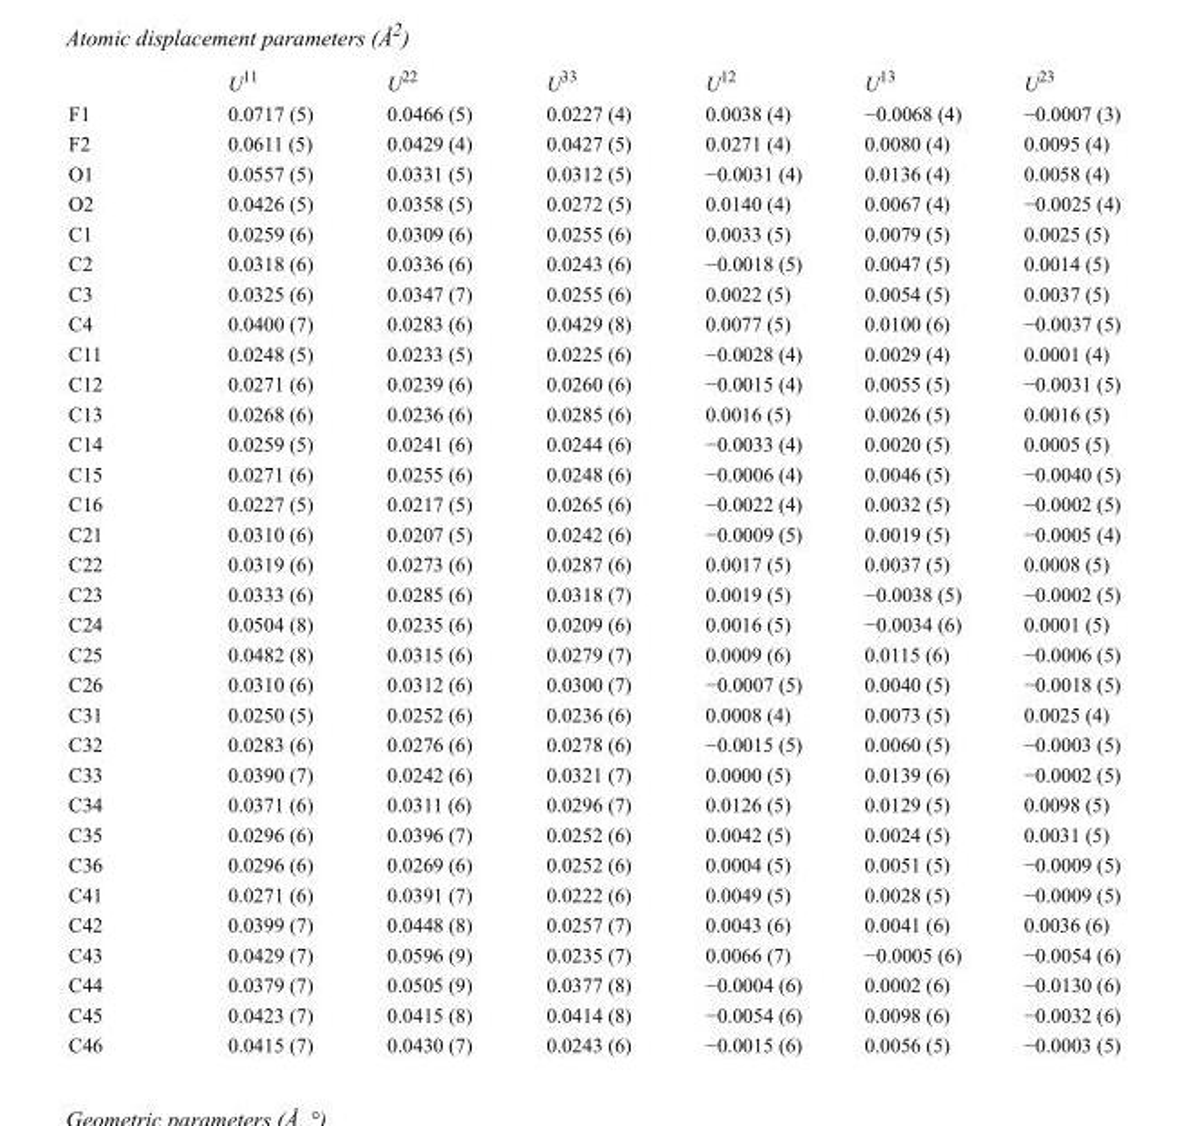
<table><thead><tr><td></td><td>U<sup>11</sup></td><td>U<sup>22</sup></td><td>U<sup>33</sup></td><td>U<sup>12</sup></td><td>U<sup>13</sup></td><td>U<sup>23</sup></td></tr></thead><tbody><tr><td>F1</td><td>0.0717 (5)</td><td>0.0466 (5)</td><td>0.0227 (4)</td><td>0.0038 (4)</td><td>−0.0068 (4)</td><td>−0.0007 (3)</td></tr><tr><td>F2</td><td>0.0611 (5)</td><td>0.0429 (4)</td><td>0.0427 (5)</td><td>0.0271 (4)</td><td>0.0080 (4)</td><td>0.0095 (4)</td></tr><tr><td>O1</td><td>0.0557 (5)</td><td>0.0331 (5)</td><td>0.0312 (5)</td><td>−0.0031 (4)</td><td>0.0136 (4)</td><td>0.0058 (4)</td></tr><tr><td>O2</td><td>0.0426 (5)</td><td>0.0358 (5)</td><td>0.0272 (5)</td><td>0.0140 (4)</td><td>0.0067 (4)</td><td>−0.0025 (4)</td></tr><tr><td>C1</td><td>0.0259 (6)</td><td>0.0309 (6)</td><td>0.0255 (6)</td><td>0.0033 (5)</td><td>0.0079 (5)</td><td>0.0025 (5)</td></tr><tr><td>C2</td><td>0.0318 (6)</td><td>0.0336 (6)</td><td>0.0243 (6)</td><td>−0.0018 (5)</td><td>0.0047 (5)</td><td>0.0014 (5)</td></tr><tr><td>C3</td><td>0.0325 (6)</td><td>0.0347 (7)</td><td>0.0255 (6)</td><td>0.0022 (5)</td><td>0.0054 (5)</td><td>0.0037 (5)</td></tr><tr><td>C4</td><td>0.0400 (7)</td><td>0.0283 (6)</td><td>0.0429 (8)</td><td>0.0077 (5)</td><td>0.0100 (6)</td><td>−0.0037 (5)</td></tr><tr><td>C11</td><td>0.0248 (5)</td><td>0.0233 (5)</td><td>0.0225 (6)</td><td>−0.0028 (4)</td><td>0.0029 (4)</td><td>0.0001 (4)</td></tr><tr><td>C12</td><td>0.0271 (6)</td><td>0.0239 (6)</td><td>0.0260 (6)</td><td>−0.0015 (4)</td><td>0.0055 (5)</td><td>−0.0031 (5)</td></tr><tr><td>C13</td><td>0.0268 (6)</td><td>0.0236 (6)</td><td>0.0285 (6)</td><td>0.0016 (5)</td><td>0.0026 (5)</td><td>0.0016 (5)</td></tr><tr><td>C14</td><td>0.0259 (5)</td><td>0.0241 (6)</td><td>0.0244 (6)</td><td>−0.0033 (4)</td><td>0.0020 (5)</td><td>0.0005 (5)</td></tr><tr><td>C15</td><td>0.0271 (6)</td><td>0.0255 (6)</td><td>0.0248 (6)</td><td>−0.0006 (4)</td><td>0.0046 (5)</td><td>−0.0040 (5)</td></tr><tr><td>C16</td><td>0.0227 (5)</td><td>0.0217 (5)</td><td>0.0265 (6)</td><td>−0.0022 (4)</td><td>0.0032 (5)</td><td>−0.0002 (5)</td></tr><tr><td>C21</td><td>0.0310 (6)</td><td>0.0207 (5)</td><td>0.0242 (6)</td><td>−0.0009 (5)</td><td>0.0019 (5)</td><td>−0.0005 (4)</td></tr><tr><td>C22</td><td>0.0319 (6)</td><td>0.0273 (6)</td><td>0.0287 (6)</td><td>0.0017 (5)</td><td>0.0037 (5)</td><td>0.0008 (5)</td></tr><tr><td>C23</td><td>0.0333 (6)</td><td>0.0285 (6)</td><td>0.0318 (7)</td><td>0.0019 (5)</td><td>−0.0038 (5)</td><td>−0.0002 (5)</td></tr><tr><td>C24</td><td>0.0504 (8)</td><td>0.0235 (6)</td><td>0.0209 (6)</td><td>0.0016 (5)</td><td>−0.0034 (6)</td><td>0.0001 (5)</td></tr><tr><td>C25</td><td>0.0482 (8)</td><td>0.0315 (6)</td><td>0.0279 (7)</td><td>0.0009 (6)</td><td>0.0115 (6)</td><td>−0.0006 (5)</td></tr><tr><td>C26</td><td>0.0310 (6)</td><td>0.0312 (6)</td><td>0.0300 (7)</td><td>−0.0007 (5)</td><td>0.0040 (5)</td><td>−0.0018 (5)</td></tr><tr><td>C31</td><td>0.0250 (5)</td><td>0.0252 (6)</td><td>0.0236 (6)</td><td>0.0008 (4)</td><td>0.0073 (5)</td><td>0.0025 (4)</td></tr><tr><td>C32</td><td>0.0283 (6)</td><td>0.0276 (6)</td><td>0.0278 (6)</td><td>−0.0015 (5)</td><td>0.0060 (5)</td><td>−0.0003 (5)</td></tr><tr><td>C33</td><td>0.0390 (7)</td><td>0.0242 (6)</td><td>0.0321 (7)</td><td>0.0000 (5)</td><td>0.0139 (6)</td><td>−0.0002 (5)</td></tr><tr><td>C34</td><td>0.0371 (6)</td><td>0.0311 (6)</td><td>0.0296 (7)</td><td>0.0126 (5)</td><td>0.0129 (5)</td><td>0.0098 (5)</td></tr><tr><td>C35</td><td>0.0296 (6)</td><td>0.0396 (7)</td><td>0.0252 (6)</td><td>0.0042 (5)</td><td>0.0024 (5)</td><td>0.0031 (5)</td></tr><tr><td>C36</td><td>0.0296 (6)</td><td>0.0269 (6)</td><td>0.0252 (6)</td><td>0.0004 (5)</td><td>0.0051 (5)</td><td>−0.0009 (5)</td></tr><tr><td>C41</td><td>0.0271 (6)</td><td>0.0391 (7)</td><td>0.0222 (6)</td><td>0.0049 (5)</td><td>0.0028 (5)</td><td>−0.0009 (5)</td></tr><tr><td>C42</td><td>0.0399 (7)</td><td>0.0448 (8)</td><td>0.0257 (7)</td><td>0.0043 (6)</td><td>0.0041 (6)</td><td>0.0036 (6)</td></tr><tr><td>C43</td><td>0.0429 (7)</td><td>0.0596 (9)</td><td>0.0235 (7)</td><td>0.0066 (7)</td><td>−0.0005 (6)</td><td>−0.0054 (6)</td></tr><tr><td>C44</td><td>0.0379 (7)</td><td>0.0505 (9)</td><td>0.0377 (8)</td><td>−0.0004 (6)</td><td>0.0002 (6)</td><td>−0.0130 (6)</td></tr><tr><td>C45</td><td>0.0423 (7)</td><td>0.0415 (8)</td><td>0.0414 (8)</td><td>−0.0054 (6)</td><td>0.0098 (6)</td><td>−0.0032 (6)</td></tr><tr><td>C46</td><td>0.0415 (7)</td><td>0.0430 (7)</td><td>0.0243 (6)</td><td>−0.0015 (6)</td><td>0.0056 (5)</td><td>−0.0003 (5)</td></tr></tbody></table>